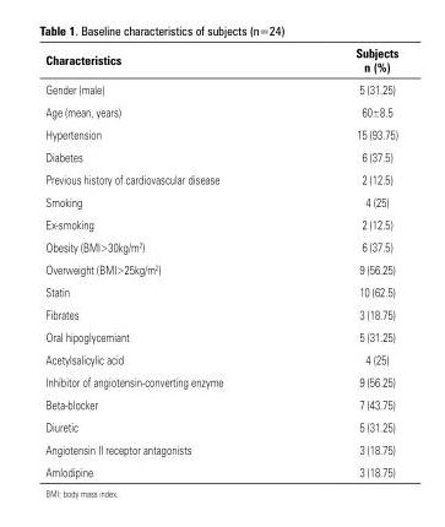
<table><thead><tr><td>Characteristics</td><td>Subjects n (%)</td></tr></thead><tbody><tr><td>Gender (male)</td><td>5 (31.25)</td></tr><tr><td>Age (mean, years)</td><td>60±8.5</td></tr><tr><td>Hypertension</td><td>15 (93.75)</td></tr><tr><td>Diabetes</td><td>6 (37.5)</td></tr><tr><td>Previous history of cardiovascular disease</td><td>2 (12.5)</td></tr><tr><td>Smoking</td><td>4 (25)</td></tr><tr><td>Ex-smoking</td><td>2 (12.5)</td></tr><tr><td>Obesity (BMI&gt;30kg/m<sup>2</sup>)</td><td>6 (37.5)</td></tr><tr><td>Overweight (BMI&gt;25kg/m<sup>2</sup>)</td><td>9 (56.25)</td></tr><tr><td>Statin</td><td>10 (62.5)</td></tr><tr><td>Fibrates</td><td>3 (18.75)</td></tr><tr><td>Oral hipoglycemiant</td><td>5 (31.25)</td></tr><tr><td>Acetylsalicylic acid</td><td>4 (25)</td></tr><tr><td>Inhibitor of angiotensin-converting enzyme</td><td>9 (56.25)</td></tr><tr><td>Beta-blocker</td><td>7 (43.75)</td></tr><tr><td>Diuretic</td><td>5 (31.25)</td></tr><tr><td>Angiotensin II receptor antagonists</td><td>3 (18.75)</td></tr><tr><td>Amlodipine</td><td>3 (18.75)</td></tr></tbody></table>